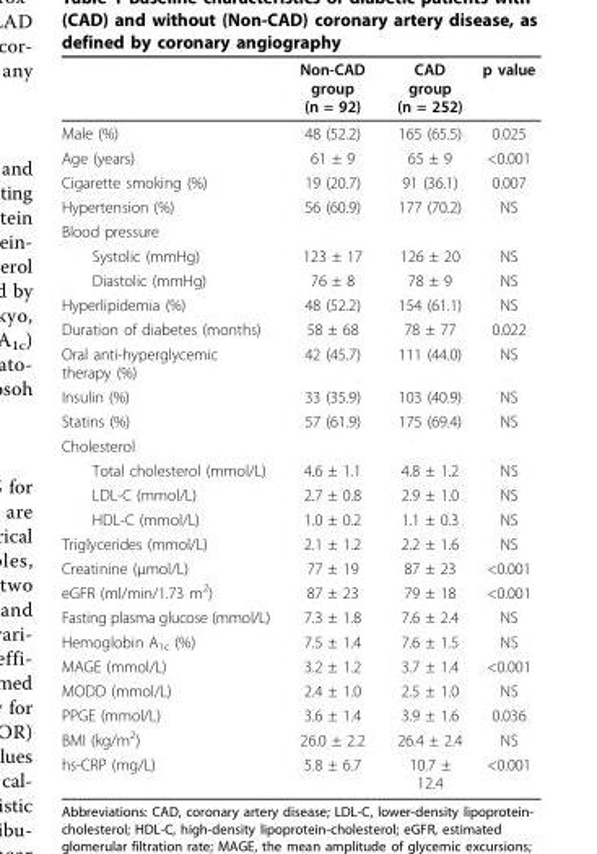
<table><thead><tr><td></td><td>Non-CAD group (n = 92)</td><td>CAD group (n = 252)</td><td>p value</td></tr></thead><tbody><tr><td>Male (%)</td><td>48 (52.2)</td><td>165 (65.5)</td><td>0.025</td></tr><tr><td>Age (years)</td><td>61 ± 9</td><td>65 ± 9</td><td>&lt;0.001</td></tr><tr><td>Cigarette smoking (%)</td><td>19 (20.7)</td><td>91 (36.1)</td><td>0.007</td></tr><tr><td>Hypertension (%)</td><td>56 (60.9)</td><td>177 (70.2)</td><td>NS</td></tr><tr><td colspan="4">Blood pressure</td></tr><tr><td>Systolic (mmHg)</td><td>123 ± 17</td><td>126 ± 20</td><td>NS</td></tr><tr><td>Diastolic (mmHg)</td><td>76 ± 8</td><td>78 ± 9</td><td>NS</td></tr><tr><td>Hyperlipidemia (%)</td><td>48 (52.2)</td><td>154 (61.1)</td><td>NS</td></tr><tr><td>Duration of diabetes (months)</td><td>58 ± 68</td><td>78 ± 77</td><td>0.022</td></tr><tr><td>Oral anti-hyperglycemic therapy (%)</td><td>42 (45.7)</td><td>111 (44.0)</td><td>NS</td></tr><tr><td>Insulin (%)</td><td>33 (35.9)</td><td>103 (40.9)</td><td>NS</td></tr><tr><td>Statins (%)</td><td>57 (61.9)</td><td>175 (69.4)</td><td>NS</td></tr><tr><td colspan="4">Cholesterol</td></tr><tr><td>Total cholesterol (mmol/L)</td><td>4.6 ± 1.1</td><td>4.8 ± 1.2</td><td>NS</td></tr><tr><td>LDL-C (mmol/L)</td><td>2.7 ± 0.8</td><td>2.9 ± 1.0</td><td>NS</td></tr><tr><td>HDL-C (mmol/L)</td><td>1.0 ± 0.2</td><td>1.1 ± 0.3</td><td>NS</td></tr><tr><td>Triglycerides (mmol/L)</td><td>2.1 ± 1.2</td><td>2.2 ± 1.6</td><td>NS</td></tr><tr><td>Creatinine (μmol/L)</td><td>77 ± 19</td><td>87 ± 23</td><td>&lt;0.001</td></tr><tr><td>eGFR (ml/min/1.73 m<sup>2</sup>)</td><td>87 ± 23</td><td>79 ± 18</td><td>&lt;0.001</td></tr><tr><td>Fasting plasma glucose (mmol/L)</td><td>7.3 ± 1.8</td><td>7.6 ± 2.4</td><td>NS</td></tr><tr><td>Hemoglobin A<sub>1c</sub> (%)</td><td>7.5 ± 1.4</td><td>7.6 ± 1.5</td><td>NS</td></tr><tr><td>MAGE (mmol/L)</td><td>3.2 ± 1.2</td><td>3.7 ± 1.4</td><td>&lt;0.001</td></tr><tr><td>MODD (mmol/L)</td><td>2.4 ± 1.0</td><td>2.5 ± 1.0</td><td>NS</td></tr><tr><td>PPGE (mmol/L)</td><td>3.6 ± 1.4</td><td>3.9 ± 1.6</td><td>0.036</td></tr><tr><td>BMI (kg/m<sup>2</sup>)</td><td>26.0 ± 2.2</td><td>26.4 ± 2.4</td><td>NS</td></tr><tr><td>hs-CRP (mg/L)</td><td>5.8 ± 6.7</td><td>10.7 ± 12.4</td><td>&lt;0.001</td></tr></tbody></table>